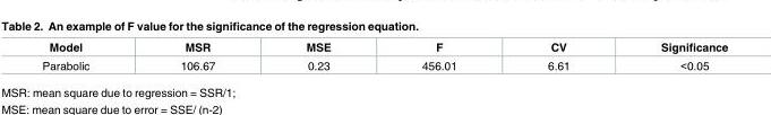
<table><thead><tr><td>Model</td><td>MSR</td><td>MSE</td><td>F</td><td>CV</td><td>Significance</td></tr></thead><tbody><tr><td>Parabolic</td><td>106.67</td><td>0.23</td><td>456.01</td><td>6.61</td><td>&lt;0.05</td></tr></tbody></table>